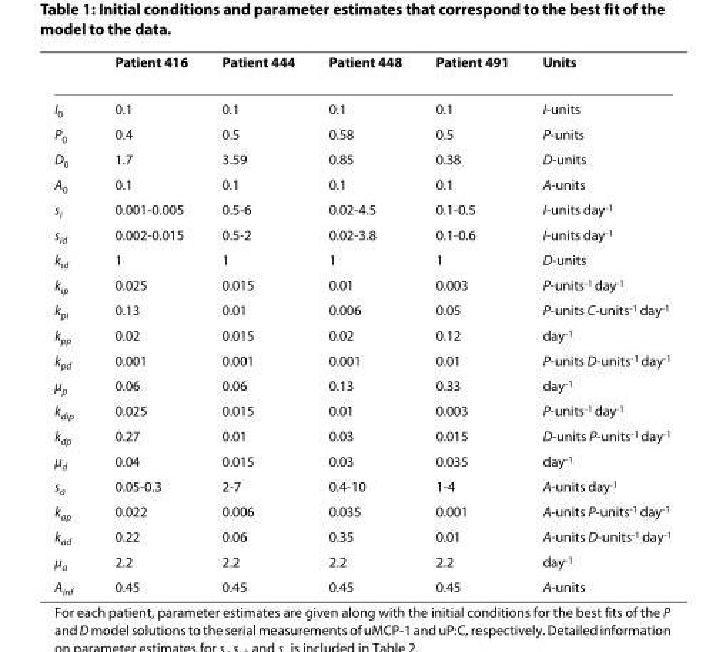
<table><thead><tr><td></td><td>Patient 416</td><td>Patient 444</td><td>Patient 448</td><td>Patient 491</td><td>Units</td></tr></thead><tbody><tr><td>I<sub>0</sub></td><td>0.1</td><td>0.1</td><td>0.1</td><td>0.1</td><td>I-units</td></tr><tr><td>P<sub>0</sub></td><td>0.4</td><td>0.5</td><td>0.58</td><td>0.5</td><td>P-units</td></tr><tr><td>D<sub>0</sub></td><td>1.7</td><td>3.59</td><td>0.85</td><td>0.38</td><td>D-units</td></tr><tr><td>A<sub>0</sub></td><td>0.1</td><td>0.1</td><td>0.1</td><td>0.1</td><td>A-units</td></tr><tr><td>s<sub>i</sub></td><td>0.001-0.005</td><td>0.5-6</td><td>0.02-4.5</td><td>0.1-0.5</td><td>I-units day<sup>-1</sup></td></tr><tr><td>s<sub>id</sub></td><td>0.002-0.015</td><td>0.5-2</td><td>0.02-3.8</td><td>0.1-0.6</td><td>I-units day<sup>-1</sup></td></tr><tr><td>k<sub>id</sub></td><td>1</td><td>1</td><td>1</td><td>1</td><td>D-units</td></tr><tr><td>k<sub>ip</sub></td><td>0.025</td><td>0.015</td><td>0.01</td><td>0.003</td><td>P-units<sup>-1</sup> day<sup>-1</sup></td></tr><tr><td>k<sub>pi</sub></td><td>0.13</td><td>0.01</td><td>0.006</td><td>0.05</td><td>P-units C-units<sup>-1</sup> day<sup>-1</sup></td></tr><tr><td>k<sub>pp</sub></td><td>0.02</td><td>0.015</td><td>0.02</td><td>0.12</td><td>day<sup>-1</sup></td></tr><tr><td>k<sub>pd</sub></td><td>0.001</td><td>0.001</td><td>0.001</td><td>0.01</td><td>P-units D-units<sup>-1</sup> day<sup>-1</sup></td></tr><tr><td>μ<sub>p</sub></td><td>0.06</td><td>0.06</td><td>0.13</td><td>0.33</td><td>day<sup>-1</sup></td></tr><tr><td>k<sub>dip</sub></td><td>0.025</td><td>0.015</td><td>0.01</td><td>0.003</td><td>P-units<sup>-1</sup> day<sup>-1</sup></td></tr><tr><td>k<sub>dp</sub></td><td>0.27</td><td>0.01</td><td>0.03</td><td>0.015</td><td>D-units P-units<sup>-1</sup> day<sup>-1</sup></td></tr><tr><td>μ<sub>d</sub></td><td>0.04</td><td>0.015</td><td>0.03</td><td>0.035</td><td>day<sup>-1</sup></td></tr><tr><td>s<sub>a</sub></td><td>0.05-0.3</td><td>2-7</td><td>0.4-10</td><td>1-4</td><td>A-units day<sup>-1</sup></td></tr><tr><td>k<sub>ap</sub></td><td>0.022</td><td>0.006</td><td>0.035</td><td>0.001</td><td>A-units P-units<sup>-1</sup> day<sup>-1</sup></td></tr><tr><td>k<sub>ad</sub></td><td>0.22</td><td>0.06</td><td>0.35</td><td>0.01</td><td>A-units D-units<sup>-1</sup> day<sup>-1</sup></td></tr><tr><td>μ<sub>a</sub></td><td>2.2</td><td>2.2</td><td>2.2</td><td>2.2</td><td>day<sup>-1</sup></td></tr><tr><td>A<sub>inf</sub></td><td>0.45</td><td>0.45</td><td>0.45</td><td>0.45</td><td>A-units</td></tr></tbody></table>